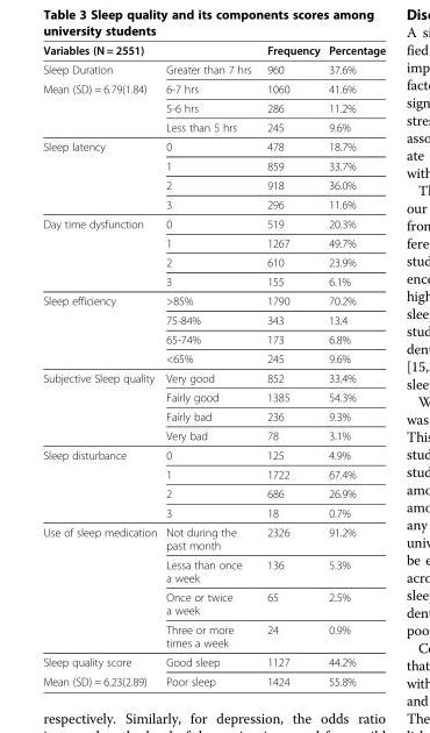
<table><thead><tr><td>Variables (N = 2551)</td><td></td><td>Frequency</td><td>Percentage</td></tr></thead><tbody><tr><td>Sleep Duration</td><td>Greater than 7 hrs</td><td>960</td><td>37.6%</td></tr><tr><td rowspan="3">Mean (SD) = 6.79(1.84)</td><td>6-7 hrs</td><td>1060</td><td>41.6%</td></tr><tr><td>5-6 hrs</td><td>286</td><td>11.2%</td></tr><tr><td>Less than 5 hrs</td><td>245</td><td>9.6%</td></tr><tr><td rowspan="4">Sleep latency</td><td>0</td><td>478</td><td>18.7%</td></tr><tr><td>1</td><td>859</td><td>33.7%</td></tr><tr><td>2</td><td>918</td><td>36.0%</td></tr><tr><td>3</td><td>296</td><td>11.6%</td></tr><tr><td rowspan="4">Day time dysfunction</td><td>0</td><td>519</td><td>20.3%</td></tr><tr><td>1</td><td>1267</td><td>49.7%</td></tr><tr><td>2</td><td>610</td><td>23.9%</td></tr><tr><td>3</td><td>155</td><td>6.1%</td></tr><tr><td rowspan="4">Sleep efficiency</td><td>&gt;85%</td><td>1790</td><td>70.2%</td></tr><tr><td>75-84%</td><td>343</td><td>13.4</td></tr><tr><td>65-74%</td><td>173</td><td>6.8%</td></tr><tr><td>&lt;65%</td><td>245</td><td>9.6%</td></tr><tr><td rowspan="4">Subjective Sleep quality</td><td>Very good</td><td>852</td><td>33.4%</td></tr><tr><td>Fairly good</td><td>1385</td><td>54.3%</td></tr><tr><td>Fairly bad</td><td>236</td><td>9.3%</td></tr><tr><td>Very bad</td><td>78</td><td>3.1%</td></tr><tr><td rowspan="4">Sleep disturbance</td><td>0</td><td>125</td><td>4.9%</td></tr><tr><td>1</td><td>1722</td><td>67.4%</td></tr><tr><td>2</td><td>686</td><td>26.9%</td></tr><tr><td>3</td><td>18</td><td>0.7%</td></tr><tr><td rowspan="4">Use of sleep medication</td><td>Not during the past month</td><td>2326</td><td>91.2%</td></tr><tr><td>Lessa than once a week</td><td>136</td><td>5.3%</td></tr><tr><td>Once or twice a week</td><td>65</td><td>2.5%</td></tr><tr><td>Three or more times a week</td><td>24</td><td>0.9%</td></tr><tr><td>Sleep quality score</td><td>Good sleep</td><td>1127</td><td>44.2%</td></tr><tr><td>Mean (SD) = 6.23(2.89)</td><td>Poor sleep</td><td>1424</td><td>55.8%</td></tr></tbody></table>